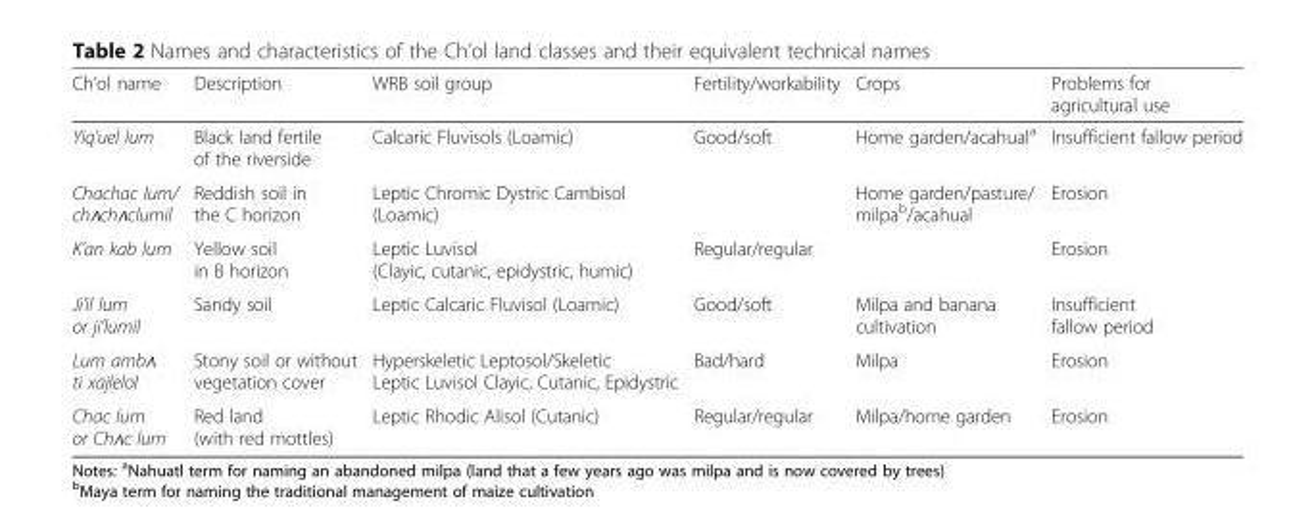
<table><thead><tr><td>Ch’ol name</td><td>Description</td><td>WRB soil group</td><td>Fertility/workability</td><td>Crops</td><td>Problems for agricultural use</td></tr></thead><tbody><tr><td>Yiq’uel lum</td><td>Black land fertile of the riverside</td><td>Calcaric Fluvisols (Loamic)</td><td>Good/soft</td><td>Home garden/acahual<sup>a</sup></td><td>Insufficient fallow period</td></tr><tr><td>Chachac lum/ chʌchʌclumil</td><td>Reddish soil in the C horizon</td><td>Leptic Chromic Dystric Cambisol (Loamic)</td><td></td><td rowspan="2">Home garden/pasture/ milpa<sup>b</sup>/acahual</td><td>Erosion</td></tr><tr><td>K’an kab lum</td><td>Yellow soil in B horizon</td><td>Leptic Luvisol (Clayic, cutanic, epidystric, humic)</td><td>Regular/regular</td><td>Erosion</td></tr><tr><td>Ji’il lum or ji’lumil</td><td>Sandy soil</td><td>Leptic Calcaric Fluvisol (Loamic)</td><td>Good/soft</td><td>Milpa and banana cultivation</td><td>Insufficient fallow period</td></tr><tr><td>Lum ambʌ ti xajlelol</td><td>Stony soil or without vegetation cover</td><td>Hyperskeletic Leptosol/Skeletic Leptic Luvisol Clayic, Cutanic, Epidystric</td><td>Bad/hard</td><td>Milpa</td><td>Erosion</td></tr><tr><td>Chac lum or Chʌc lum</td><td>Red land (with red mottles)</td><td>Leptic Rhodic Alisol (Cutanic)</td><td>Regular/regular</td><td>Milpa/home garden</td><td>Erosion</td></tr></tbody></table>